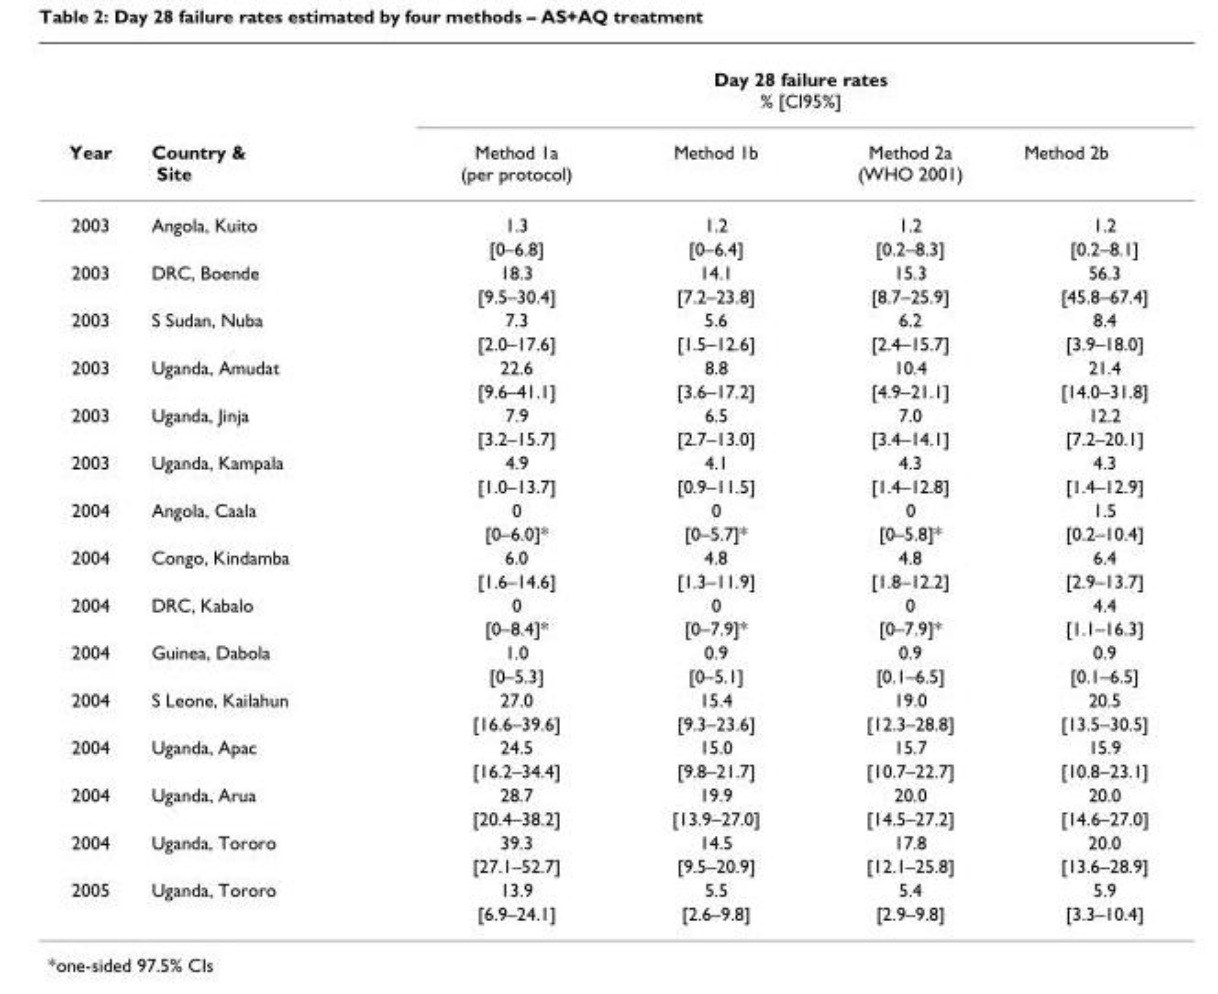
<table><thead><tr><td rowspan="2">Year</td><td rowspan="2">Country &amp; Site</td><td colspan="4">Day 28 failure rates % [CI95%]</td></tr><tr><td>Method 1a (per protocol)</td><td>Method 1b</td><td>Method 2a (WHO 2001)</td><td>Method 2b</td></tr></thead><tbody><tr><td rowspan="2">2003</td><td>Angola, Kuito</td><td>1.3</td><td>1.2</td><td>1.2</td><td>1.2</td></tr><tr><td></td><td>[0–6.8]</td><td>[0–6.4]</td><td>[0.2–8.3]</td><td>[0.2–8.1]</td></tr><tr><td rowspan="2">2003</td><td>DRC, Boende</td><td>18.3</td><td>14.1</td><td>15.3</td><td>56.3</td></tr><tr><td></td><td>[9.5–30.4]</td><td>[7.2–23.8]</td><td>[8.7–25.9]</td><td>[45.8–67.4]</td></tr><tr><td rowspan="2">2003</td><td>S Sudan, Nuba</td><td>7.3</td><td>5.6</td><td>6.2</td><td>8.4</td></tr><tr><td></td><td>[2.0–17.6]</td><td>[1.5–12.6]</td><td>[2.4–15.7]</td><td>[3.9–18.0]</td></tr><tr><td rowspan="2">2003</td><td>Uganda, Amudat</td><td>22.6</td><td>8.8</td><td>10.4</td><td>21.4</td></tr><tr><td></td><td>[9.6–41.1]</td><td>[3.6–17.2]</td><td>[4.9–21.1]</td><td>[14.0–31.8]</td></tr><tr><td rowspan="2">2003</td><td>Uganda, Jinja</td><td>7.9</td><td>6.5</td><td>7.0</td><td>12.2</td></tr><tr><td></td><td>[3.2–15.7]</td><td>[2.7–13.0]</td><td>[3.4–14.1]</td><td>[7.2–20.1]</td></tr><tr><td rowspan="2">2003</td><td>Uganda, Kampala</td><td>4.9</td><td>4.1</td><td>4.3</td><td>4.3</td></tr><tr><td></td><td>[1.0–13.7]</td><td>[0.9–11.5]</td><td>[1.4–12.8]</td><td>[1.4–12.9]</td></tr><tr><td rowspan="2">2004</td><td>Angola, Caala</td><td>0</td><td>0</td><td>0</td><td>1.5</td></tr><tr><td></td><td>[0–6.0]*</td><td>[0–5.7]*</td><td>[0–5.8]*</td><td>[0.2–10.4]</td></tr><tr><td rowspan="2">2004</td><td>Congo, Kindamba</td><td>6.0</td><td>4.8</td><td>4.8</td><td>6.4</td></tr><tr><td></td><td>[1.6–14.6]</td><td>[1.3–11.9]</td><td>[1.8–12.2]</td><td>[2.9–13.7]</td></tr><tr><td rowspan="2">2004</td><td>DRC, Kabalo</td><td>0</td><td>0</td><td>0</td><td>4.4</td></tr><tr><td></td><td>[0–8.4]*</td><td>[0–7.9]*</td><td>[0–7.9]*</td><td>[1.1–16.3]</td></tr><tr><td rowspan="2">2004</td><td>Guinea, Dabola</td><td>1.0</td><td>0.9</td><td>0.9</td><td>0.9</td></tr><tr><td></td><td>[0–5.3]</td><td>[0–5.1]</td><td>[0.1–6.5]</td><td>[0.1–6.5]</td></tr><tr><td rowspan="2">2004</td><td>S Leone, Kailahun</td><td>27.0</td><td>15.4</td><td>19.0</td><td>20.5</td></tr><tr><td></td><td>[16.6–39.6]</td><td>[9.3–23.6]</td><td>[12.3–28.8]</td><td>[13.5–30.5]</td></tr><tr><td rowspan="2">2004</td><td>Uganda, Apac</td><td>24.5</td><td>15.0</td><td>15.7</td><td>15.9</td></tr><tr><td></td><td>[16.2–34.4]</td><td>[9.8–21.7]</td><td>[10.7–22.7]</td><td>[10.8–23.1]</td></tr><tr><td rowspan="2">2004</td><td>Uganda, Arua</td><td>28.7</td><td>19.9</td><td>20.0</td><td>20.0</td></tr><tr><td></td><td>[20.4–38.2]</td><td>[13.9–27.0]</td><td>[14.5–27.2]</td><td>[14.6–27.0]</td></tr><tr><td rowspan="2">2004</td><td>Uganda, Tororo</td><td>39.3</td><td>14.5</td><td>17.8</td><td>20.0</td></tr><tr><td></td><td>[27.1–52.7]</td><td>[9.5–20.9]</td><td>[12.1–25.8]</td><td>[13.6–28.9]</td></tr><tr><td rowspan="2">2005</td><td>Uganda, Tororo</td><td>13.9</td><td>5.5</td><td>5.4</td><td>5.9</td></tr><tr><td></td><td>[6.9–24.1]</td><td>[2.6–9.8]</td><td>[2.9–9.8]</td><td>[3.3–10.4]</td></tr></tbody></table>